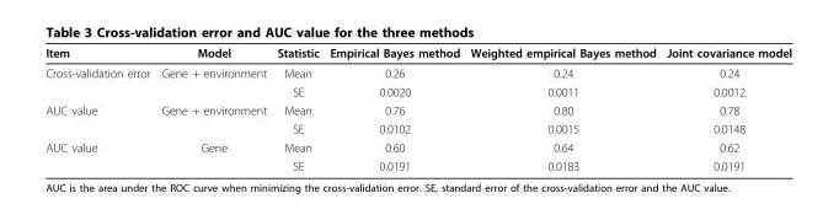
<table><thead><tr><td>Item</td><td>Model</td><td>Statistic</td><td>Empirical Bayes method</td><td>Weighted empirical Bayes method</td><td>Joint covariance model</td></tr></thead><tbody><tr><td rowspan="2">Cross-validation error</td><td>Gene + environment</td><td>Mean</td><td>0.26</td><td>0.24</td><td>0.24</td></tr><tr><td></td><td>SE</td><td>0.0020</td><td>0.0011</td><td>0.0012</td></tr><tr><td rowspan="2">AUC value</td><td>Gene + environment</td><td>Mean</td><td>0.76</td><td>0.80</td><td>0.78</td></tr><tr><td></td><td>SE</td><td>0.0102</td><td>0.0015</td><td>0.0148</td></tr><tr><td rowspan="2">AUC value</td><td>Gene</td><td>Mean</td><td>0.60</td><td>0.64</td><td>0.62</td></tr><tr><td></td><td>SE</td><td>0.0191</td><td>0.0183</td><td>0.0191</td></tr></tbody></table>